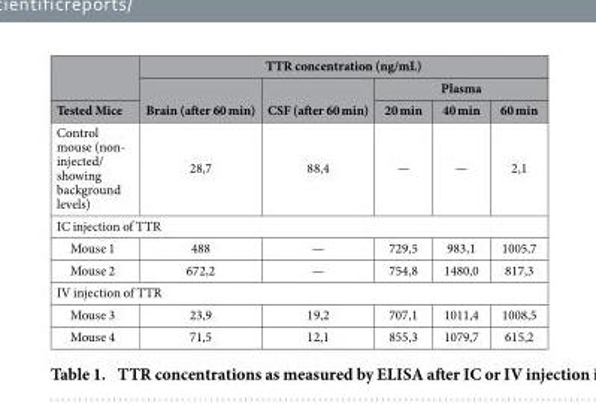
<table><thead><tr><td rowspan="3">Tested Mice</td><td colspan="5">TTR concentration (ng/mL)</td></tr><tr><td rowspan="2">Brain (after 60 min)</td><td rowspan="2">CSF (after 60 min)</td><td colspan="3">Plasma</td></tr><tr><td>20 min</td><td>40 min</td><td>60 min</td></tr></thead><tbody><tr><td>Control mouse (non- injected/ showing background levels)</td><td>28,7</td><td>88,4</td><td>—</td><td>—</td><td>2,1</td></tr><tr><td colspan="6">IC injection of TTR</td></tr><tr><td>Mouse 1</td><td>488</td><td>—</td><td>729,5</td><td>983,1</td><td>1005,7</td></tr><tr><td>Mouse 2</td><td>672,2</td><td>—</td><td>754,8</td><td>1480,0</td><td>817,3</td></tr><tr><td colspan="6">IV injection of TTR</td></tr><tr><td>Mouse 3</td><td>23,9</td><td>19,2</td><td>707,1</td><td>1011,4</td><td>1008,5</td></tr><tr><td>Mouse 4</td><td>71,5</td><td>12,1</td><td>855,3</td><td>1079,7</td><td>615,2</td></tr></tbody></table>